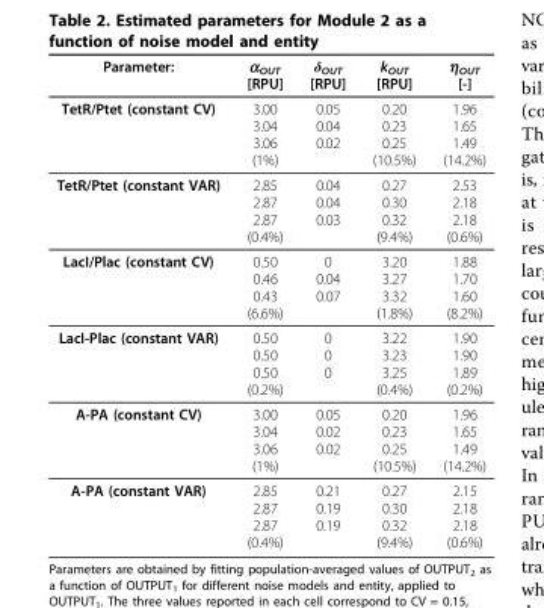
<table><thead><tr><td>Parameter:</td><td>α<sub>OUT</sub> [RPU]</td><td>δ<sub>OUT</sub> [RPU]</td><td>k<sub>OUT</sub> [RPU]</td><td>η<sub>OUT</sub> [-]</td></tr></thead><tbody><tr><td>TetR/Ptet (constant CV)</td><td>3.00 3.04 3.06 (1%)</td><td>0.05 0.04 0.02</td><td>0.20 0.23 0.25 (10.5%)</td><td>1.96 1.65 1.49 (14.2%)</td></tr><tr><td>TetR/Ptet (constant VAR)</td><td>2.85 2.87 2.87 (0.4%)</td><td>0.04 0.04 0.03</td><td>0.27 0.30 0.32 (9.4%)</td><td>2.53 2.18 2.18 (0.6%)</td></tr><tr><td>LacI/Plac (constant CV)</td><td>0.50 0.46 0.43 (6.6%)</td><td>0 0.04 0.07</td><td>3.20 3.27 3.32 (1.8%)</td><td>1.88 1.70 1.60 (8.2%)</td></tr><tr><td>LacI-Plac (constant VAR)</td><td>0.50 0.50 0.50 (0.2%)</td><td>0 0 0</td><td>3.22 3.23 3.25 (0.4%)</td><td>1.90 1.90 1.89 (0.2%)</td></tr><tr><td>A-PA (constant CV)</td><td>3.00 3.04 3.06 (1%)</td><td>0.05 0.02 0.02</td><td>0.20 0.23 0.25 (10.5%)</td><td>1.96 1.65 1.49 (14.2%)</td></tr><tr><td>A-PA (constant VAR)</td><td>2.85 2.87 2.87 (0.4%)</td><td>0.21 0.19 0.19</td><td>0.27 0.30 0.32 (9.4%)</td><td>2.15 2.18 2.18 (0.6%)</td></tr></tbody></table>